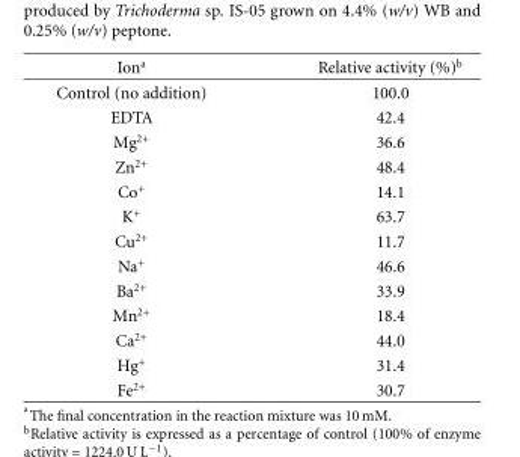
<table><thead><tr><td>Ion<sup>a</sup></td><td>Relative activity (%)<sup>b</sup></td></tr></thead><tbody><tr><td>Control (no addition)</td><td>100.0</td></tr><tr><td>EDTA</td><td>42.4</td></tr><tr><td>Mg<sup>2+</sup></td><td>36.6</td></tr><tr><td>Zn<sup>2+</sup></td><td>48.4</td></tr><tr><td>Co<sup>+</sup></td><td>14.1</td></tr><tr><td>K<sup>+</sup></td><td>63.7</td></tr><tr><td>Cu<sup>2+</sup></td><td>11.7</td></tr><tr><td>Na<sup>+</sup></td><td>46.6</td></tr><tr><td>Ba<sup>2+</sup></td><td>33.9</td></tr><tr><td>Mn<sup>2+</sup></td><td>18.4</td></tr><tr><td>Ca<sup>2+</sup></td><td>44.0</td></tr><tr><td>Hg<sup>+</sup></td><td>31.4</td></tr><tr><td>Fe<sup>2+</sup></td><td>30.7</td></tr></tbody></table>